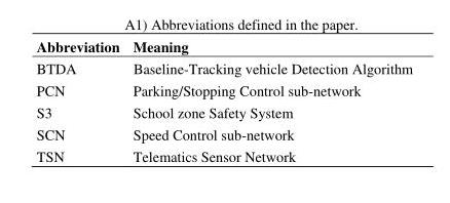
<table><thead><tr><td>Abbreviation</td><td>Meaning</td></tr></thead><tbody><tr><td>BTDA</td><td>Baseline-Tracking vehicle Detection Algorithm</td></tr><tr><td>PCN</td><td>Parking/Stopping Control sub-network</td></tr><tr><td>S3</td><td>School zone Safety System</td></tr><tr><td>SCN</td><td>Speed Control sub-network</td></tr><tr><td>TSN</td><td>Telematics Sensor Network</td></tr></tbody></table>